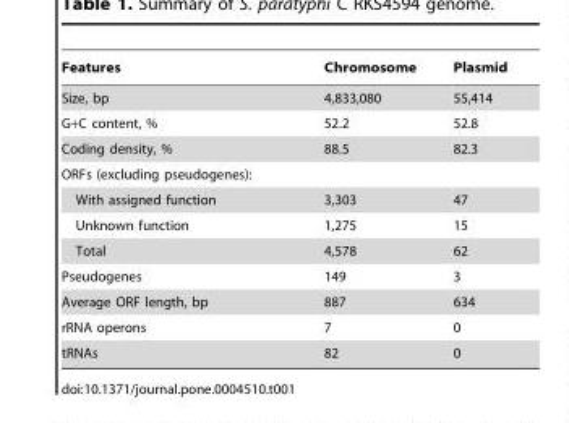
<table><thead><tr><td>Features</td><td>Chromosome</td><td>Plasmid</td></tr></thead><tbody><tr><td>Size, bp</td><td>4,833,080</td><td>55,414</td></tr><tr><td>G+C content, %</td><td>52.2</td><td>52.8</td></tr><tr><td>Coding density, %</td><td>88.5</td><td>82.3</td></tr><tr><td colspan="3">ORFs (excluding pseudogenes):</td></tr><tr><td>With assigned function</td><td>3,303</td><td>47</td></tr><tr><td>Unknown function</td><td>1,275</td><td>15</td></tr><tr><td>Total</td><td>4,578</td><td>62</td></tr><tr><td>Pseudogenes</td><td>149</td><td>3</td></tr><tr><td>Average ORF length, bp</td><td>887</td><td>634</td></tr><tr><td>rRNA operons</td><td>7</td><td>0</td></tr><tr><td>tRNAs</td><td>82</td><td>0</td></tr></tbody></table>